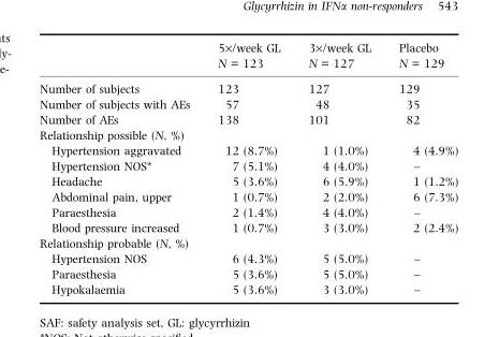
<table><thead><tr><td></td><td>5×/week GL N = 123</td><td>3×/week GL N = 127</td><td>Placebo N = 129</td></tr></thead><tbody><tr><td>Number of subjects</td><td>123</td><td>127</td><td>129</td></tr><tr><td>Number of subjects with AEs</td><td>57</td><td>48</td><td>35</td></tr><tr><td>Number of AEs</td><td>138</td><td>101</td><td>82</td></tr><tr><td colspan="4">Relationship possible (N, %)</td></tr><tr><td>Hypertension aggravated</td><td>12 (8.7%)</td><td>1 (1.0%)</td><td>4 (4.9%)</td></tr><tr><td>Hypertension NOS*</td><td>7 (5.1%)</td><td>4 (4.0%)</td><td>–</td></tr><tr><td>Headache</td><td>5 (3.6%)</td><td>6 (5.9%)</td><td>1 (1.2%)</td></tr><tr><td>Abdominal pain, upper</td><td>1 (0.7%)</td><td>2 (2.0%)</td><td>6 (7.3%)</td></tr><tr><td>Paraesthesia</td><td>2 (1.4%)</td><td>4 (4.0%)</td><td>–</td></tr><tr><td>Blood pressure increased</td><td>1 (0.7%)</td><td>3 (3.0%)</td><td>2 (2.4%)</td></tr><tr><td colspan="4">Relationship probable (N, %)</td></tr><tr><td>Hypertension NOS</td><td>6 (4.3%)</td><td>5 (5.0%)</td><td>–</td></tr><tr><td>Paraesthesia</td><td>5 (3.6%)</td><td>5 (5.0%)</td><td>–</td></tr><tr><td>Hypokalaemia</td><td>5 (3.6%)</td><td>3 (3.0%)</td><td>–</td></tr></tbody></table>